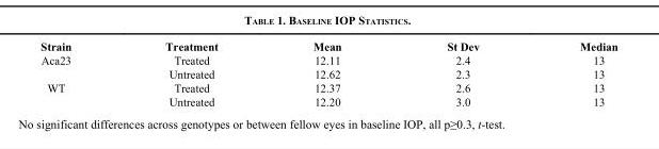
<table><thead><tr><td>Strain</td><td>Treatment</td><td>Mean</td><td>St Dev</td><td>Median</td></tr></thead><tbody><tr><td rowspan="2">Aca23</td><td>Treated</td><td>12.11</td><td>2.4</td><td>13</td></tr><tr><td>Untreated</td><td>12.62</td><td>2.3</td><td>13</td></tr><tr><td rowspan="2">WT</td><td>Treated</td><td>12.37</td><td>2.6</td><td>13</td></tr><tr><td>Untreated</td><td>12.20</td><td>3.0</td><td>13</td></tr></tbody></table>